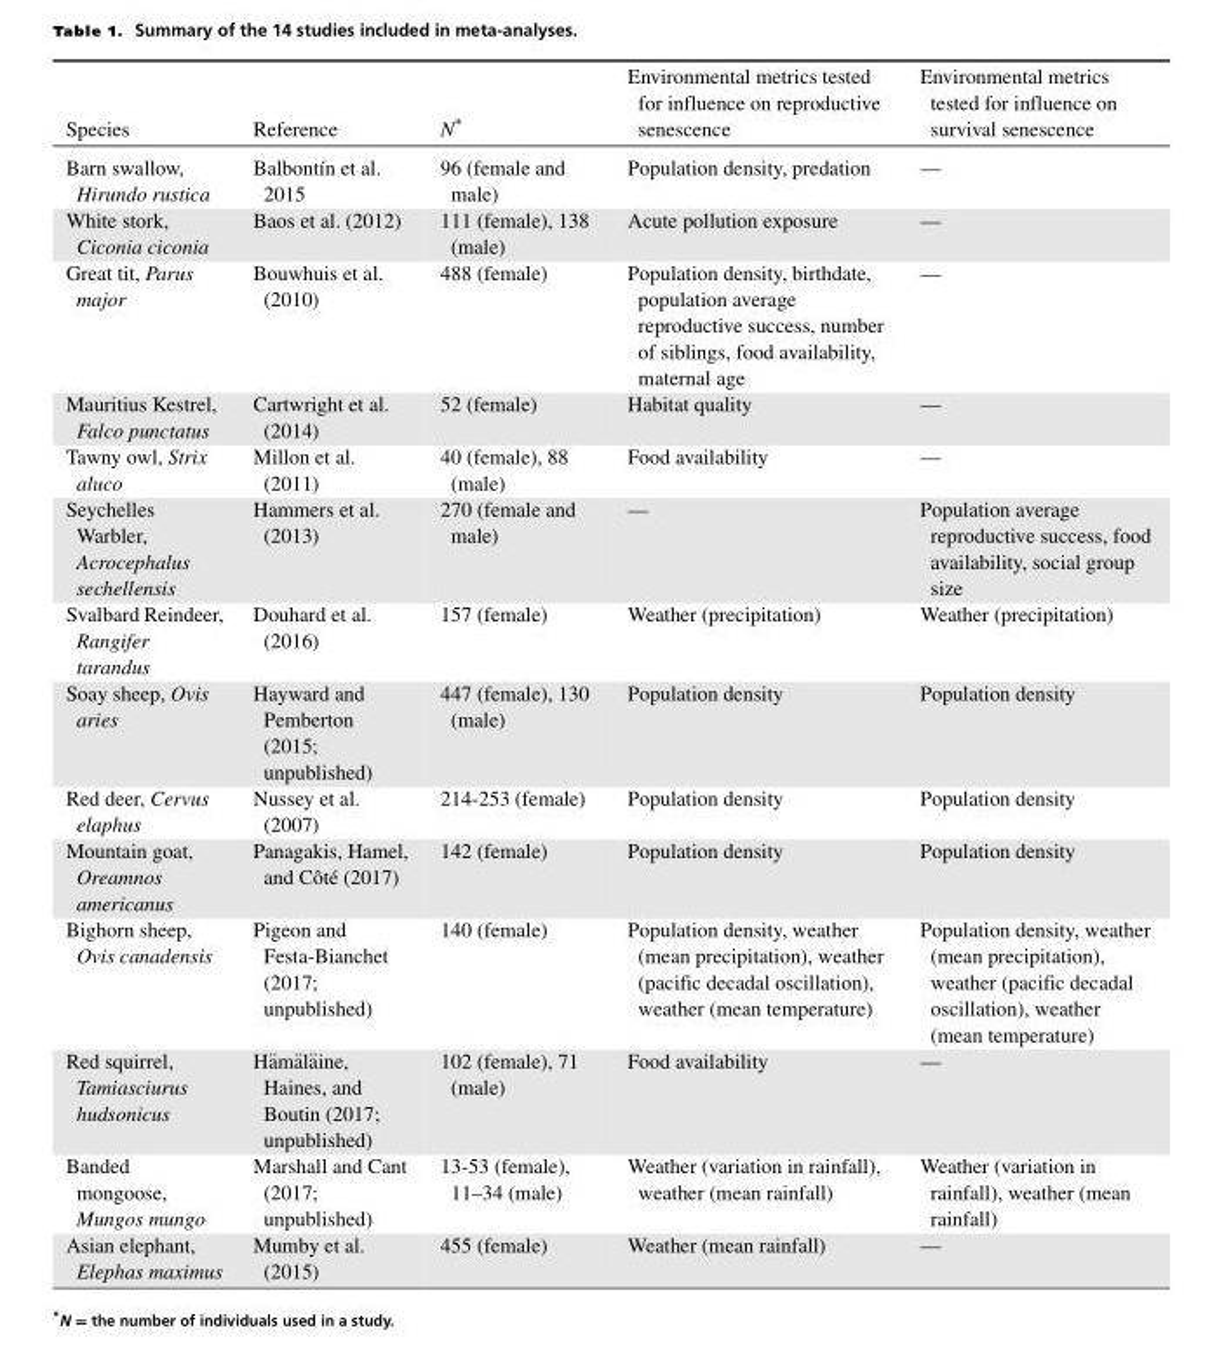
<table><thead><tr><td>Species</td><td>Reference</td><td>N∗</td><td>Environmental metrics tested for influence on reproductive senescence</td><td>Environmental metrics tested for influence on survival senescence</td></tr></thead><tbody><tr><td>Barn swallow, Hirundo rustica</td><td>Balbont´ın et al. 2015</td><td>96 (female and male)</td><td>Population density, predation</td><td>—</td></tr><tr><td>White stork, Ciconia ciconia</td><td>Baos et al. (2012)</td><td>111 (female), 138 (male)</td><td>Acute pollution exposure</td><td>—</td></tr><tr><td>Great tit, Parus major</td><td>Bouwhuis et al. (2010)</td><td>488 (female)</td><td>Population density, birthdate, population average reproductive success, number of siblings, food availability, maternal age</td><td>—</td></tr><tr><td>Mauritius Kestrel, Falco punctatus</td><td>Cartwright et al. (2014)</td><td>52 (female)</td><td>Habitat quality</td><td>—</td></tr><tr><td>Tawny owl, Strix aluco</td><td>Millon et al. (2011)</td><td>40 (female), 88 (male)</td><td>Food availability</td><td>—</td></tr><tr><td>Seychelles Warbler, Acrocephalus sechellensis</td><td>Hammers et al. (2013)</td><td>270 (female and male)</td><td>—</td><td>Population average reproductive success, food availability, social group size</td></tr><tr><td>Svalbard Reindeer, Rangifer tarandus</td><td>Douhard et al. (2016)</td><td>157 (female)</td><td>Weather (precipitation)</td><td>Weather (precipitation)</td></tr><tr><td>Soay sheep, Ovis aries</td><td>Hayward and Pemberton (2015; unpublished)</td><td>447 (female), 130 (male)</td><td>Population density</td><td>Population density</td></tr><tr><td>Red deer, Cervus elaphus</td><td>Nussey et al. (2007)</td><td>214-253 (female)</td><td>Population density</td><td>Population density</td></tr><tr><td>Mountain goat, Oreamnos americanus</td><td>Panagakis, Hamel, and Cˆot´e (2017)</td><td>142 (female)</td><td>Population density</td><td>Population density</td></tr><tr><td>Bighorn sheep, Ovis canadensis</td><td>Pigeon and Festa-Bianchet (2017; unpublished)</td><td>140 (female)</td><td>Population density, weather (mean precipitation), weather (pacific decadal oscillation), weather (mean temperature)</td><td>Population density, weather (mean precipitation), weather (pacific decadal oscillation), weather (mean temperature)</td></tr><tr><td>Red squirrel, Tamiasciurus hudsonicus</td><td>H¨am¨al¨aine, Haines, and Boutin (2017; unpublished)</td><td>102 (female), 71 (male)</td><td>Food availability</td><td>—</td></tr><tr><td>Banded mongoose, Mungos mungo</td><td>Marshall and Cant (2017; unpublished)</td><td>13-53 (female), 11–34 (male)</td><td>Weather (variation in rainfall), weather (mean rainfall)</td><td>Weather (variation in rainfall), weather (mean rainfall)</td></tr><tr><td>Asian elephant, Elephas maximus</td><td>Mumby et al. (2015)</td><td>455 (female)</td><td>Weather (mean rainfall)</td><td>—</td></tr></tbody></table>